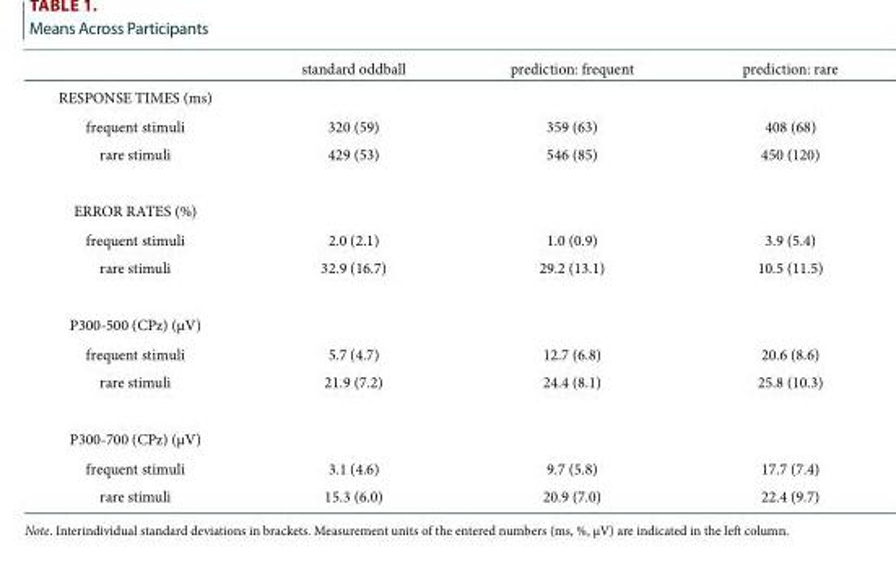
<table><thead><tr><td></td><td>standard oddball</td><td>prediction: frequent</td><td>prediction: rare</td></tr></thead><tbody><tr><td colspan="4">RESPONSE TIMES (ms)</td></tr><tr><td>frequent stimuli</td><td>320 (59)</td><td>359 (63)</td><td>408 (68)</td></tr><tr><td>rare stimuli</td><td>429 (53)</td><td>546 (85)</td><td>450 (120)</td></tr><tr><td colspan="4">ERROR RATES (%)</td></tr><tr><td>frequent stimuli</td><td>2.0 (2.1)</td><td>1.0 (0.9)</td><td>3.9 (5.4)</td></tr><tr><td>rare stimuli</td><td>32.9 (16.7)</td><td>29.2 (13.1)</td><td>10.5 (11.5)</td></tr><tr><td colspan="4">P300-500 (CPz) (µV)</td></tr><tr><td>frequent stimuli</td><td>5.7 (4.7)</td><td>12.7 (6.8)</td><td>20.6 (8.6)</td></tr><tr><td>rare stimuli</td><td>21.9 (7.2)</td><td>24.4 (8.1)</td><td>25.8 (10.3)</td></tr><tr><td colspan="4">P300-700 (CPz) (µV)</td></tr><tr><td>frequent stimuli</td><td>3.1 (4.6)</td><td>9.7 (5.8)</td><td>17.7 (7.4)</td></tr><tr><td>rare stimuli</td><td>15.3 (6.0)</td><td>20.9 (7.0)</td><td>22.4 (9.7)</td></tr></tbody></table>